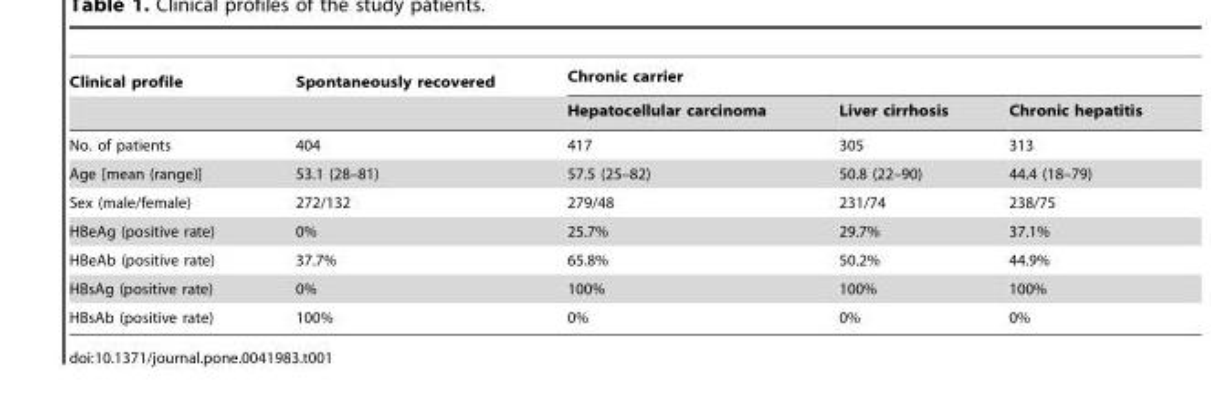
<table><thead><tr><td rowspan="2">Clinical profile</td><td rowspan="2">Spontaneously recovered</td><td colspan="3">Chronic carrier</td></tr><tr><td>Hepatocellular carcinoma</td><td>Liver cirrhosis</td><td>Chronic hepatitis</td></tr></thead><tbody><tr><td>No. of patients</td><td>404</td><td>417</td><td>305</td><td>313</td></tr><tr><td>Age [mean (range)]</td><td>53.1 (28–81)</td><td>57.5 (25–82)</td><td>50.8 (22–90)</td><td>44.4 (18–79)</td></tr><tr><td>Sex (male/female)</td><td>272/132</td><td>279/48</td><td>231/74</td><td>238/75</td></tr><tr><td>HBeAg (positive rate)</td><td>0%</td><td>25.7%</td><td>29.7%</td><td>37.1%</td></tr><tr><td>HBeAb (positive rate)</td><td>37.7%</td><td>65.8%</td><td>50.2%</td><td>44.9%</td></tr><tr><td>HBsAg (positive rate)</td><td>0%</td><td>100%</td><td>100%</td><td>100%</td></tr><tr><td>HBsAb (positive rate)</td><td>100%</td><td>0%</td><td>0%</td><td>0%</td></tr></tbody></table>